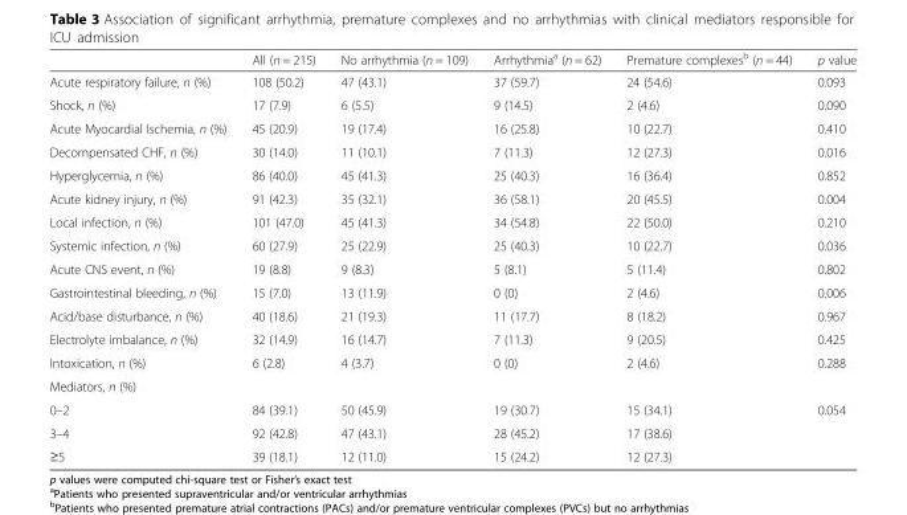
<table><thead><tr><td></td><td>All (n = 215)</td><td>No arrhythmia (n = 109)</td><td>Arrhythmia<sup>a</sup> (n = 62)</td><td>Premature complexes<sup>b</sup> (n = 44)</td><td>p value</td></tr></thead><tbody><tr><td>Acute respiratory failure, n (%)</td><td>108 (50.2)</td><td>47 (43.1)</td><td>37 (59.7)</td><td>24 (54.6)</td><td>0.093</td></tr><tr><td>Shock, n (%)</td><td>17 (7.9)</td><td>6 (5.5)</td><td>9 (14.5)</td><td>2 (4.6)</td><td>0.090</td></tr><tr><td>Acute Myocardial Ischemia, n (%)</td><td>45 (20.9)</td><td>19 (17.4)</td><td>16 (25.8)</td><td>10 (22.7)</td><td>0.410</td></tr><tr><td>Decompensated CHF, n (%)</td><td>30 (14.0)</td><td>11 (10.1)</td><td>7 (11.3)</td><td>12 (27.3)</td><td>0.016</td></tr><tr><td>Hyperglycemia, n (%)</td><td>86 (40.0)</td><td>45 (41.3)</td><td>25 (40.3)</td><td>16 (36.4)</td><td>0.852</td></tr><tr><td>Acute kidney injury, n (%)</td><td>91 (42.3)</td><td>35 (32.1)</td><td>36 (58.1)</td><td>20 (45.5)</td><td>0.004</td></tr><tr><td>Local infection, n (%)</td><td>101 (47.0)</td><td>45 (41.3)</td><td>34 (54.8)</td><td>22 (50.0)</td><td>0.210</td></tr><tr><td>Systemic infection, n (%)</td><td>60 (27.9)</td><td>25 (22.9)</td><td>25 (40.3)</td><td>10 (22.7)</td><td>0.036</td></tr><tr><td>Acute CNS event, n (%)</td><td>19 (8.8)</td><td>9 (8.3)</td><td>5 (8.1)</td><td>5 (11.4)</td><td>0.802</td></tr><tr><td>Gastrointestinal bleeding, n (%)</td><td>15 (7.0)</td><td>13 (11.9)</td><td>0 (0)</td><td>2 (4.6)</td><td>0.006</td></tr><tr><td>Acid/base disturbance, n (%)</td><td>40 (18.6)</td><td>21 (19.3)</td><td>11 (17.7)</td><td>8 (18.2)</td><td>0.967</td></tr><tr><td>Electrolyte imbalance, n (%)</td><td>32 (14.9)</td><td>16 (14.7)</td><td>7 (11.3)</td><td>9 (20.5)</td><td>0.425</td></tr><tr><td>Intoxication, n (%)</td><td>6 (2.8)</td><td>4 (3.7)</td><td>0 (0)</td><td>2 (4.6)</td><td>0.288</td></tr><tr><td colspan="6">Mediators, n (%)</td></tr><tr><td>0–2</td><td>84 (39.1)</td><td>50 (45.9)</td><td>19 (30.7)</td><td>15 (34.1)</td><td>0.054</td></tr><tr><td>3–4</td><td>92 (42.8)</td><td>47 (43.1)</td><td>28 (45.2)</td><td>17 (38.6)</td><td></td></tr><tr><td>≥5</td><td>39 (18.1)</td><td>12 (11.0)</td><td>15 (24.2)</td><td>12 (27.3)</td><td></td></tr></tbody></table>